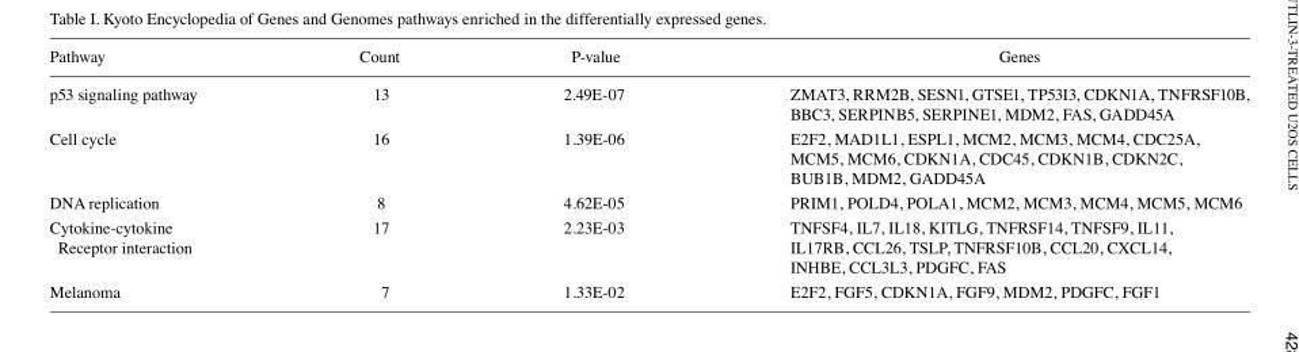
<table><thead><tr><td>Pathway</td><td>Count</td><td>P-value</td><td>Genes</td></tr></thead><tbody><tr><td>p53 signaling pathway</td><td>13</td><td>2.49E-07</td><td>ZMAT3, RRM2B, SESN1, GTSE1, TP53I3, CDKN1A, TNFRSF10B, BBC3, SERPINB5, SERPINE1, MDM2, FAS, GADD45A</td></tr><tr><td>Cell cycle</td><td>16</td><td>1.39E-06</td><td>E2F2, MAD1L1, ESPL1, MCM2, MCM3, MCM4, CDC25A, MCM5, MCM6, CDKN1A, CDC45, CDKN1B, CDKN2C, BUB1B, MDM2, GADD45A</td></tr><tr><td>DNA replication</td><td>8</td><td>4.62E-05</td><td>PRIM1, POLD4, POLA1, MCM2, MCM3, MCM4, MCM5, MCM6</td></tr><tr><td>Cytokine-cytokine Receptor interaction</td><td>17</td><td>2.23E-03</td><td>TNFSF4, IL7, IL18, KITLG, TNFRSF14, TNFSF9, IL11, IL17RB, CCL26, TSLP, TNFRSF10B, CCL20, CXCL14, INHBE, CCL3L3, PDGFC, FAS</td></tr><tr><td>Melanoma</td><td>7</td><td>1.33E-02</td><td>E2F2, FGF5, CDKN1A, FGF9, MDM2, PDGFC, FGF1</td></tr></tbody></table>